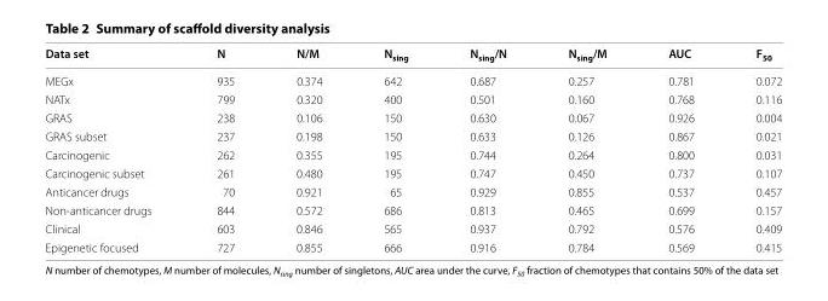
<table><thead><tr><td>Data set</td><td>N</td><td>N/M</td><td>N<sub>sing</sub></td><td>N<sub>sing</sub>/N</td><td>N<sub>sing</sub>/M</td><td>AUC</td><td>F<sub>50</sub></td></tr></thead><tbody><tr><td>MEGx</td><td>935</td><td>0.374</td><td>642</td><td>0.687</td><td>0.257</td><td>0.781</td><td>0.072</td></tr><tr><td>NATx</td><td>799</td><td>0.320</td><td>400</td><td>0.501</td><td>0.160</td><td>0.768</td><td>0.116</td></tr><tr><td>GRAS</td><td>238</td><td>0.106</td><td>150</td><td>0.630</td><td>0.067</td><td>0.926</td><td>0.004</td></tr><tr><td>GRAS subset</td><td>237</td><td>0.198</td><td>150</td><td>0.633</td><td>0.126</td><td>0.867</td><td>0.021</td></tr><tr><td>Carcinogenic</td><td>262</td><td>0.355</td><td>195</td><td>0.744</td><td>0.264</td><td>0.800</td><td>0.031</td></tr><tr><td>Carcinogenic subset</td><td>261</td><td>0.480</td><td>195</td><td>0.747</td><td>0.450</td><td>0.737</td><td>0.107</td></tr><tr><td>Anticancer drugs</td><td>70</td><td>0.921</td><td>65</td><td>0.929</td><td>0.855</td><td>0.537</td><td>0.457</td></tr><tr><td>Non‑anticancer drugs</td><td>844</td><td>0.572</td><td>686</td><td>0.813</td><td>0.465</td><td>0.699</td><td>0.157</td></tr><tr><td>Clinical</td><td>603</td><td>0.846</td><td>565</td><td>0.937</td><td>0.792</td><td>0.576</td><td>0.409</td></tr><tr><td>Epigenetic focused</td><td>727</td><td>0.855</td><td>666</td><td>0.916</td><td>0.784</td><td>0.569</td><td>0.415</td></tr></tbody></table>